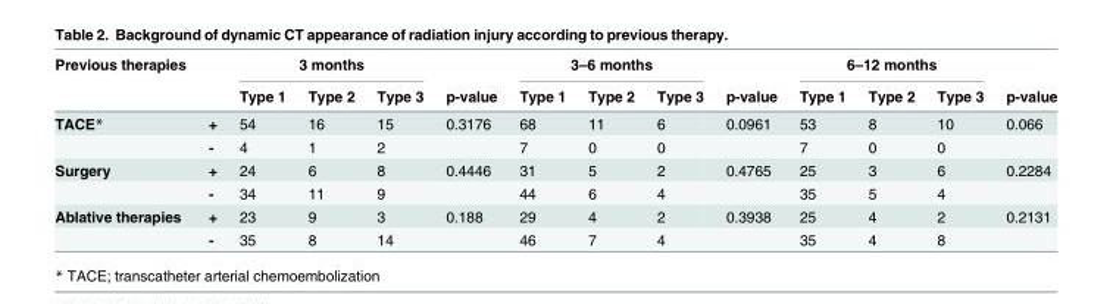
<table><thead><tr><td rowspan="2">Previous therapies</td><td rowspan="2"></td><td colspan="3">3 months</td><td rowspan="2">p-value</td><td colspan="3">3–6 months</td><td rowspan="2">p-value</td><td colspan="3">6–12 months</td><td rowspan="2">p-value</td></tr><tr><td>Type 1</td><td>Type 2</td><td>Type 3</td><td>Type 1</td><td>Type 2</td><td>Type 3</td><td>Type 1</td><td>Type 2</td><td>Type 3</td></tr></thead><tbody><tr><td rowspan="2">TACE*</td><td>+</td><td>54</td><td>16</td><td>15</td><td>0.3176</td><td>68</td><td>11</td><td>6</td><td>0.0961</td><td>53</td><td>8</td><td>10</td><td>0.066</td></tr><tr><td>-</td><td>4</td><td>1</td><td>2</td><td></td><td>7</td><td>0</td><td>0</td><td></td><td>7</td><td>0</td><td>0</td><td></td></tr><tr><td rowspan="2">Surgery</td><td>+</td><td>24</td><td>6</td><td>8</td><td>0.4446</td><td>31</td><td>5</td><td>2</td><td>0.4765</td><td>25</td><td>3</td><td>6</td><td>0.2284</td></tr><tr><td>-</td><td>34</td><td>11</td><td>9</td><td></td><td>44</td><td>6</td><td>4</td><td></td><td>35</td><td>5</td><td>4</td><td></td></tr><tr><td rowspan="2">Ablative therapies</td><td>+</td><td>23</td><td>9</td><td>3</td><td>0.188</td><td>29</td><td>4</td><td>2</td><td>0.3938</td><td>25</td><td>4</td><td>2</td><td>0.2131</td></tr><tr><td>-</td><td>35</td><td>8</td><td>14</td><td></td><td>46</td><td>7</td><td>4</td><td></td><td>35</td><td>4</td><td>8</td><td></td></tr></tbody></table>